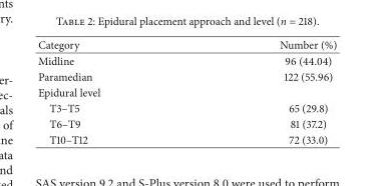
<table><thead><tr><td>Category</td><td>Number (%)</td></tr></thead><tbody><tr><td>Midline</td><td>96 (44.04)</td></tr><tr><td>Paramedian</td><td>122 (55.96)</td></tr><tr><td colspan="2">Epidural level</td></tr><tr><td>T3–T5</td><td>65 (29.8)</td></tr><tr><td>T6–T9</td><td>81 (37.2)</td></tr><tr><td>T10–T12</td><td>72 (33.0)</td></tr></tbody></table>